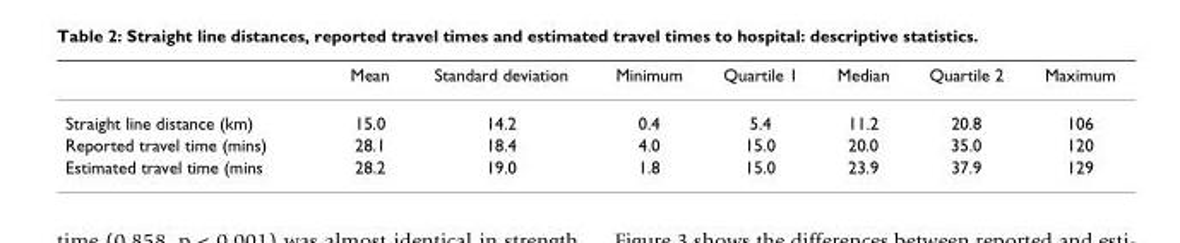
<table><thead><tr><td></td><td>Mean</td><td>Standard deviation</td><td>Minimum</td><td>Quartile 1</td><td>Median</td><td>Quartile 2</td><td>Maximum</td></tr></thead><tbody><tr><td>Straight line distance (km)</td><td>15.0</td><td>14.2</td><td>0.4</td><td>5.4</td><td>11.2</td><td>20.8</td><td>106</td></tr><tr><td>Reported travel time (mins)</td><td>28.1</td><td>18.4</td><td>4.0</td><td>15.0</td><td>20.0</td><td>35.0</td><td>120</td></tr><tr><td>Estimated travel time (mins</td><td>28.2</td><td>19.0</td><td>1.8</td><td>15.0</td><td>23.9</td><td>37.9</td><td>129</td></tr></tbody></table>